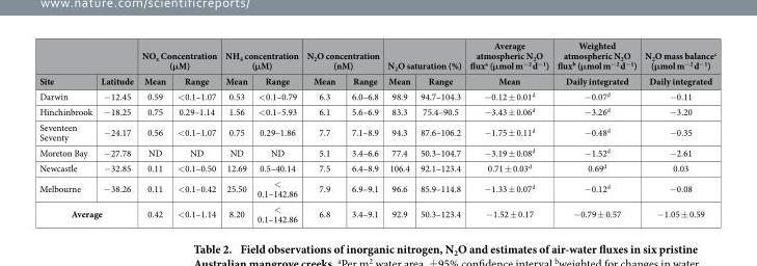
<table><thead><tr><td rowspan="2">Site</td><td rowspan="2">Latitude</td><td colspan="2">NO<sub>x</sub> Concentration (μM)</td><td colspan="2">NH<sub>4</sub> concentration (μM)</td><td colspan="2">N<sub>2</sub>O concentration (nM)</td><td colspan="2">N<sub>2</sub>O saturation (%)</td><td rowspan="2">Average atmospheric N<sub>2</sub>O flux<sup>a</sup> (μmol m<sup>−2</sup> d<sup>−1</sup>) Mean</td><td rowspan="2">Weighted atmospheric N<sub>2</sub>O flux<sup>b</sup> (μmol m<sup>−2</sup> d<sup>−1</sup>) Daily integrated</td><td rowspan="2">N<sub>2</sub>O mass balance<sup>c</sup> (μmol m<sup>−2</sup> d<sup>−1</sup>) Daily integrated</td></tr><tr><td>Mean</td><td>Range</td><td>Mean</td><td>Range</td><td>Mean</td><td>Range</td><td>Mean</td><td>Range</td></tr></thead><tbody><tr><td>Darwin</td><td>− 12.45</td><td>0.59</td><td>&lt; 0.1–1.07</td><td>0.53</td><td>&lt; 0.1–0.79</td><td>6.3</td><td>6.0–6.8</td><td>98.9</td><td>94.7–104.3</td><td>− 0.12 ± 0.01d</td><td>− 0.07<sup>d</sup></td><td>− 0.11</td></tr><tr><td>Hinchinbrook</td><td>− 18.25</td><td>0.75</td><td>0.29–1.14</td><td>1.56</td><td>&lt; 0.1–5.93</td><td>6.1</td><td>5.6–6.9</td><td>83.3</td><td>75.4–90.5</td><td>− 3.43 ± 0.06<sup>d</sup></td><td>− 3.26<sup>d</sup></td><td>− 3.20</td></tr><tr><td>Seventeen Seventy</td><td>− 24.17</td><td>0.56</td><td>&lt; 0.1–1.07</td><td>0.75</td><td>0.29–1.86</td><td>7.7</td><td>7.1–8.9</td><td>94.3</td><td>87.6–106.2</td><td>− 1.75 ± 0.11<sup>d</sup></td><td>− 0.48<sup>d</sup></td><td>− 0.35</td></tr><tr><td>Moreton Bay</td><td>− 27.78</td><td>ND</td><td>ND</td><td>ND</td><td>ND</td><td>5.1</td><td>3.4–6.6</td><td>77.4</td><td>50.3–104.7</td><td>− 3.19 ± 0.08<sup>d</sup></td><td>− 1.52<sup>d</sup></td><td>− 2.61</td></tr><tr><td>Newcastle</td><td>− 32.85</td><td>0.11</td><td>&lt; 0.1–0.50</td><td>12.69</td><td>0.5–40.14</td><td>7.5</td><td>6.4–8.9</td><td>106.4</td><td>92.1–123.4</td><td>0.71 ± 0.03<sup>d</sup></td><td>0.69<sup>d</sup></td><td>0.03</td></tr><tr><td>Melbourne</td><td>− 38.26</td><td>0.11</td><td>&lt; 0.1–0.42</td><td>25.50</td><td>&lt; 0.1–142.86</td><td>7.9</td><td>6.9–9.1</td><td>96.6</td><td>85.9–114.8</td><td>− 1.33 ± 0.07<sup>d</sup></td><td>− 0.12<sup>d</sup></td><td>− 0.08</td></tr><tr><td colspan="2">Average</td><td>0.42</td><td>&lt; 0.1–1.14</td><td>8.20</td><td>&lt; 0.1–142.86</td><td>6.8</td><td>3.4–9.1</td><td>92.9</td><td>50.3–123.4</td><td>− 1.52 ± 0.17</td><td>− 0.79 ± 0.57</td><td>− 1.05 ± 0.59</td></tr></tbody></table>